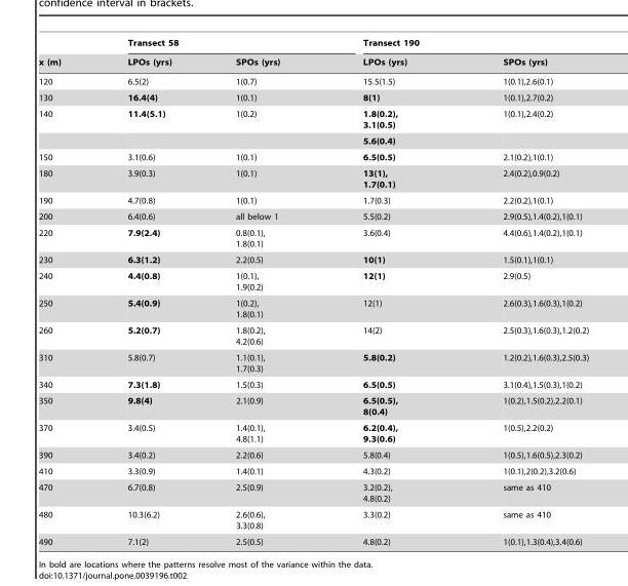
<table><thead><tr><td rowspan="2">x (m)</td><td colspan="2">Transect 58</td><td colspan="2">Transect 190</td></tr><tr><td>LPOs (yrs)</td><td>SPOs (yrs)</td><td>LPOs (yrs)</td><td>SPOs (yrs)</td></tr></thead><tbody><tr><td>120</td><td>6.5(2)</td><td>1(0.7)</td><td>15.5(1.5)</td><td>1(0.1),2.6(0.1)</td></tr><tr><td>130</td><td>16.4(4)</td><td>1(0.1)</td><td>8(1)</td><td>1(0.1),2.7(0.2)</td></tr><tr><td rowspan="2">140</td><td>11.4(5.1)</td><td>1(0.2)</td><td>1.8(0.2), 3.1(0.5)</td><td>1(0.1),2.4(0.2)</td></tr><tr><td></td><td></td><td>5.6(0.4)</td><td></td></tr><tr><td>150</td><td>3.1(0.6)</td><td>1(0.1)</td><td>6.5(0.5)</td><td>2.1(0.2),1(0.1)</td></tr><tr><td>180</td><td>3.9(0.3)</td><td>1(0.1)</td><td>13(1), 1.7(0.1)</td><td>2.4(0.2),0.9(0.2)</td></tr><tr><td>190</td><td>4.7(0.8)</td><td>1(0.1)</td><td>1.7(0.3)</td><td>2.2(0.2),1(0.1)</td></tr><tr><td>200</td><td>6.4(0.6)</td><td>all below 1</td><td>5.5(0.2)</td><td>2.9(0.5),1.4(0.2),1(0.1)</td></tr><tr><td>220</td><td>7.9(2.4)</td><td>0.8(0.1), 1.8(0.1)</td><td>3.6(0.4)</td><td>4.4(0.6),1.4(0.2),1(0.1)</td></tr><tr><td>230</td><td>6.3(1.2)</td><td>2.2(0.5)</td><td>10(1)</td><td>1.5(0.1),1(0.1)</td></tr><tr><td>240</td><td>4.4(0.8)</td><td>1(0.1), 1.9(0.2)</td><td>12(1)</td><td>2.9(0.5)</td></tr><tr><td>250</td><td>5.4(0.9)</td><td>1(0.2), 1.8(0.1)</td><td>12(1)</td><td>2.6(0.3),1.6(0.3),1(0.2)</td></tr><tr><td>260</td><td>5.2(0.7)</td><td>1.8(0.2), 4.2(0.6)</td><td>14(2)</td><td>2.5(0.3),1.6(0.3),1.2(0.2)</td></tr><tr><td>310</td><td>5.8(0.7)</td><td>1.1(0.1), 1.7(0.3)</td><td>5.8(0.2)</td><td>1.2(0.2),1.6(0.3),2.5(0.3)</td></tr><tr><td>340</td><td>7.3(1.8)</td><td>1.5(0.3)</td><td>6.5(0.5)</td><td>3.1(0.4),1.5(0.3),1(0.2)</td></tr><tr><td>350</td><td>9.8(4)</td><td>2.1(0.9)</td><td>6.5(0.5), 8(0.4)</td><td>1(0.2),1.5(0.2),2.2(0.1)</td></tr><tr><td>370</td><td>3.4(0.5)</td><td>1.4(0.1), 4.8(1.1)</td><td>6.2(0.4), 9.3(0.6)</td><td>1(0.5),2.2(0.2)</td></tr><tr><td>390</td><td>3.4(0.2)</td><td>2.2(0.6)</td><td>5.8(0.4)</td><td>1(0.5),1.6(0.5),2.3(0.2)</td></tr><tr><td>410</td><td>3.3(0.9)</td><td>1.4(0.1)</td><td>4.3(0.2)</td><td>1(0.1),2(0.2),3.2(0.6)</td></tr><tr><td>470</td><td>6.7(0.8)</td><td>2.5(0.9)</td><td>3.2(0.2), 4.8(0.2)</td><td>same as 410</td></tr><tr><td>480</td><td>10.3(6.2)</td><td>2.6(0.6), 3.3(0.8)</td><td>3.3(0.2)</td><td>same as 410</td></tr><tr><td>490</td><td>7.1(2)</td><td>2.5(0.5)</td><td>4.8(0.2)</td><td>1(0.1),1.3(0.4),3.4(0.6)</td></tr></tbody></table>